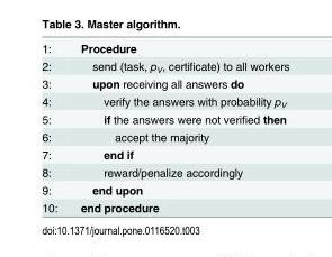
<table><tbody><tr><td>1:</td><td>Procedure</td></tr><tr><td>2:</td><td>send (task, p<sub>V</sub>, certificate) to all workers</td></tr><tr><td>3:</td><td>upon receiving all answers do</td></tr><tr><td>4:</td><td>verify the answers with probability p<sub>V</sub></td></tr><tr><td>5:</td><td>if the answers were not verified then</td></tr><tr><td>6:</td><td>accept the majority</td></tr><tr><td>7:</td><td>end if</td></tr><tr><td>8:</td><td>reward/penalize accordingly</td></tr><tr><td>9:</td><td>end upon</td></tr><tr><td>10:</td><td>end procedure</td></tr></tbody></table>